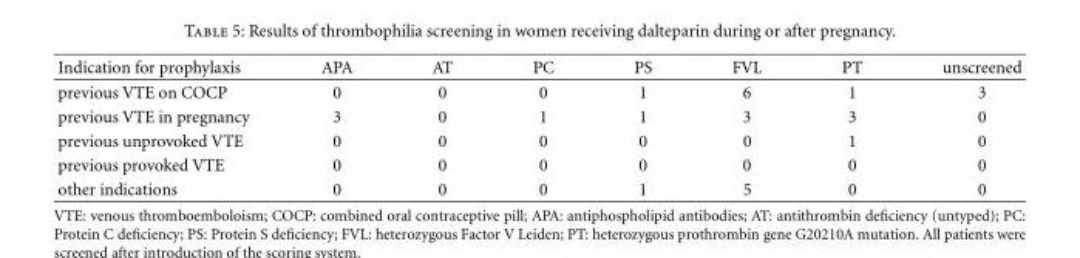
<table><thead><tr><td>Indication for prophylaxis</td><td>APA</td><td>AT</td><td>PC</td><td>PS</td><td>FVL</td><td>PT</td><td>unscreened</td></tr></thead><tbody><tr><td>previous VTE on COCP</td><td>0</td><td>0</td><td>0</td><td>1</td><td>6</td><td>1</td><td>3</td></tr><tr><td>previous VTE in pregnancy</td><td>3</td><td>0</td><td>1</td><td>1</td><td>3</td><td>3</td><td>0</td></tr><tr><td>previous unprovoked VTE</td><td>0</td><td>0</td><td>0</td><td>0</td><td>0</td><td>1</td><td>0</td></tr><tr><td>previous provoked VTE</td><td>0</td><td>0</td><td>0</td><td>0</td><td>0</td><td>0</td><td>0</td></tr><tr><td>other indications</td><td>0</td><td>0</td><td>0</td><td>1</td><td>5</td><td>0</td><td>0</td></tr></tbody></table>